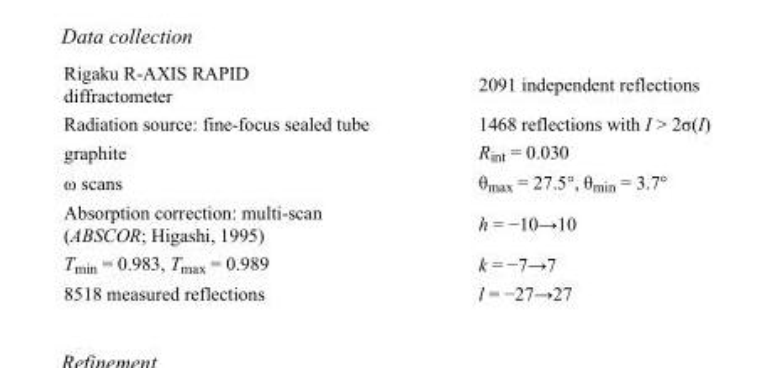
<table><tbody><tr><td>Rigaku R-AXIS RAPID diffractometer</td><td>2091 independent reflections</td></tr><tr><td>Radiation source: fine-focus sealed tube</td><td>1468 reflections with I &gt; 2σ(I)</td></tr><tr><td>graphite</td><td>R<sub>int</sub> = 0.030</td></tr><tr><td>ω scans</td><td>θ<sub>max</sub> = 27.5°, θ<sub>min</sub> = 3.7°</td></tr><tr><td>Absorption correction: multi-scan (ABSCOR; Higashi, 1995)</td><td>h = −10→10</td></tr><tr><td>T<sub>min</sub> = 0.983, T<sub>max</sub> = 0.989</td><td>k = −7→7</td></tr><tr><td>8518 measured reflections</td><td>l = −27→27</td></tr></tbody></table>